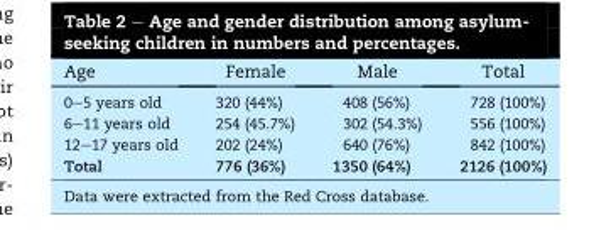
<table><thead><tr><td>Age</td><td>Female</td><td>Male</td><td>Total</td></tr></thead><tbody><tr><td>0–5 years old</td><td>320 (44%)</td><td>408 (56%)</td><td>728 (100%)</td></tr><tr><td>6–11 years old</td><td>254 (45.7%)</td><td>302 (54.3%)</td><td>556 (100%)</td></tr><tr><td>12–17 years old</td><td>202 (24%)</td><td>640 (76%)</td><td>842 (100%)</td></tr><tr><td>Total</td><td>776 (36%)</td><td>1350 (64%)</td><td>2126 (100%)</td></tr></tbody></table>